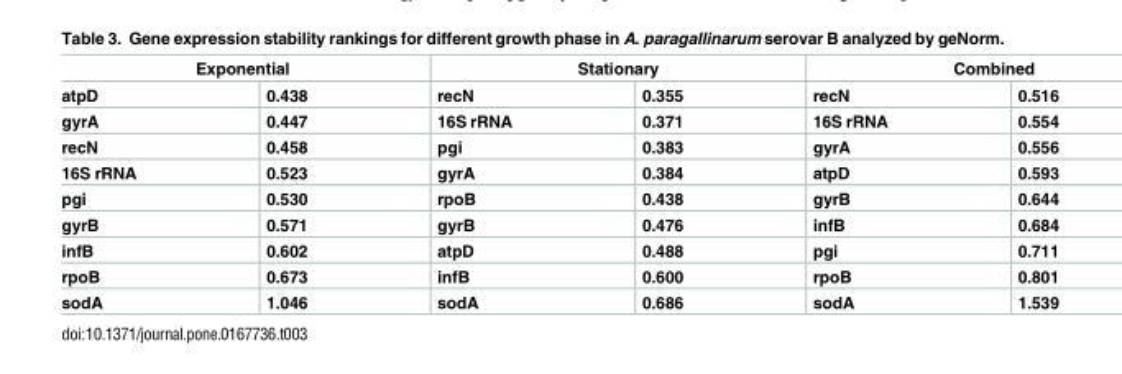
<table><thead><tr><td colspan="2">Exponential</td><td colspan="2">Stationary</td><td colspan="2">Combined</td></tr><tr><td>atpD</td><td>0.438</td><td>recN</td><td>0.355</td><td>recN</td><td>0.516</td></tr></thead><tbody><tr><td>gyrA</td><td>0.447</td><td>16S rRNA</td><td>0.371</td><td>16S rRNA</td><td>0.554</td></tr><tr><td>recN</td><td>0.458</td><td>pgi</td><td>0.383</td><td>gyrA</td><td>0.556</td></tr><tr><td>16S rRNA</td><td>0.523</td><td>gyrA</td><td>0.384</td><td>atpD</td><td>0.593</td></tr><tr><td>pgi</td><td>0.530</td><td>rpoB</td><td>0.438</td><td>gyrB</td><td>0.644</td></tr><tr><td>gyrB</td><td>0.571</td><td>gyrB</td><td>0.476</td><td>infB</td><td>0.684</td></tr><tr><td>infB</td><td>0.602</td><td>atpD</td><td>0.488</td><td>pgi</td><td>0.711</td></tr><tr><td>rpoB</td><td>0.673</td><td>infB</td><td>0.600</td><td>rpoB</td><td>0.801</td></tr><tr><td>sodA</td><td>1.046</td><td>sodA</td><td>0.686</td><td>sodA</td><td>1.539</td></tr></tbody></table>